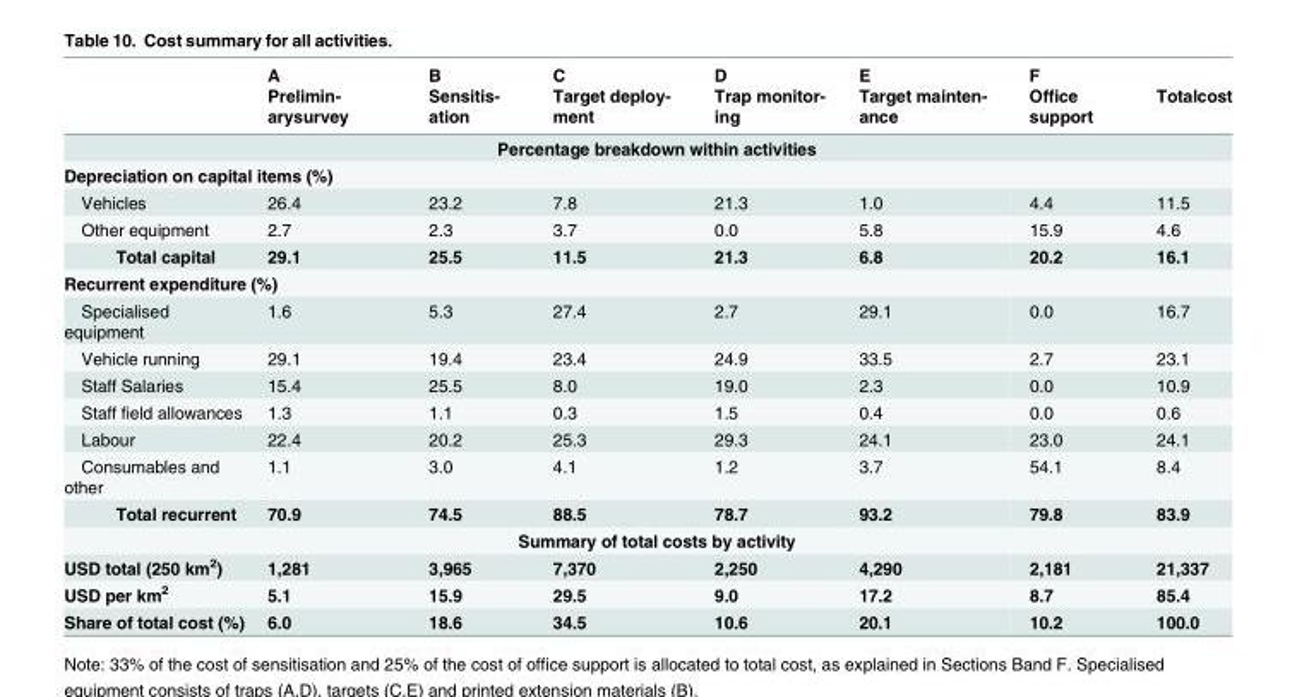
<table><thead><tr><td rowspan="2"></td><td rowspan="2">A Prelimin- arysurvey</td><td rowspan="2">B Sensitis- ation</td><td rowspan="2">C Target deploy- ment</td><td rowspan="2">D Trap monitor- ing</td><td rowspan="2">E Target mainten- ance</td><td rowspan="2">F Office support</td><td rowspan="2">Totalcost</td></tr><tr></tr></thead><tbody><tr><td colspan="8">Percentage breakdown within activities</td></tr><tr><td colspan="8">Depreciation on capital items (%)</td></tr><tr><td>Vehicles</td><td>26.4</td><td>23.2</td><td>7.8</td><td>21.3</td><td>1.0</td><td>4.4</td><td>11.5</td></tr><tr><td>Other equipment</td><td>2.7</td><td>2.3</td><td>3.7</td><td>0.0</td><td>5.8</td><td>15.9</td><td>4.6</td></tr><tr><td>Total capital</td><td>29.1</td><td>25.5</td><td>11.5</td><td>21.3</td><td>6.8</td><td>20.2</td><td>16.1</td></tr><tr><td colspan="8">Recurrent expenditure (%)</td></tr><tr><td>Specialised equipment</td><td>1.6</td><td>5.3</td><td>27.4</td><td>2.7</td><td>29.1</td><td>0.0</td><td>16.7</td></tr><tr><td>Vehicle running</td><td>29.1</td><td>19.4</td><td>23.4</td><td>24.9</td><td>33.5</td><td>2.7</td><td>23.1</td></tr><tr><td>Staff Salaries</td><td>15.4</td><td>25.5</td><td>8.0</td><td>19.0</td><td>2.3</td><td>0.0</td><td>10.9</td></tr><tr><td>Staff field allowances</td><td>1.3</td><td>1.1</td><td>0.3</td><td>1.5</td><td>0.4</td><td>0.0</td><td>0.6</td></tr><tr><td>Labour</td><td>22.4</td><td>20.2</td><td>25.3</td><td>29.3</td><td>24.1</td><td>23.0</td><td>24.1</td></tr><tr><td>Consumables and other</td><td>1.1</td><td>3.0</td><td>4.1</td><td>1.2</td><td>3.7</td><td>54.1</td><td>8.4</td></tr><tr><td>Total recurrent</td><td>70.9</td><td>74.5</td><td>88.5</td><td>78.7</td><td>93.2</td><td>79.8</td><td>83.9</td></tr><tr><td colspan="8">Summary of total costs by activity</td></tr><tr><td>USD total (250 km<sup>2</sup>)</td><td>1,281</td><td>3,965</td><td>7,370</td><td>2,250</td><td>4,290</td><td>2,181</td><td>21,337</td></tr><tr><td>USD per km<sup>2</sup></td><td>5.1</td><td>15.9</td><td>29.5</td><td>9.0</td><td>17.2</td><td>8.7</td><td>85.4</td></tr><tr><td>Share of total cost (%)</td><td>6.0</td><td>18.6</td><td>34.5</td><td>10.6</td><td>20.1</td><td>10.2</td><td>100.0</td></tr></tbody></table>